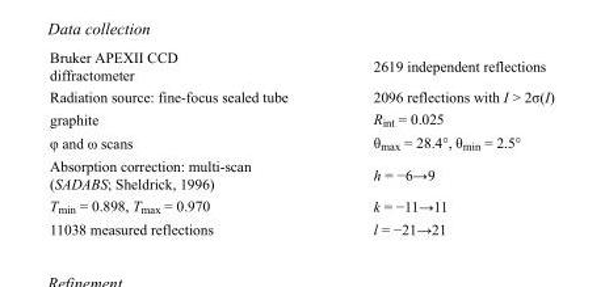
<table><tbody><tr><td>Bruker APEXII CCD diffractometer</td><td>2619 independent reflections</td></tr><tr><td>Radiation source: fine-focus sealed tube</td><td>2096 reflections with I &gt; 2σ(I)</td></tr><tr><td>graphite</td><td>R<sub>int</sub> = 0.025</td></tr><tr><td>φ and ω scans</td><td>θ<sub>max</sub> = 28.4°, θ<sub>min</sub> = 2.5°</td></tr><tr><td>Absorption correction: multi-scan (SADABS; Sheldrick, 1996)</td><td>h = −6→9</td></tr><tr><td>T<sub>min</sub> = 0.898, T<sub>max</sub> = 0.970</td><td>k = −11→11</td></tr><tr><td>11038 measured reflections</td><td>l = −21→21</td></tr></tbody></table>